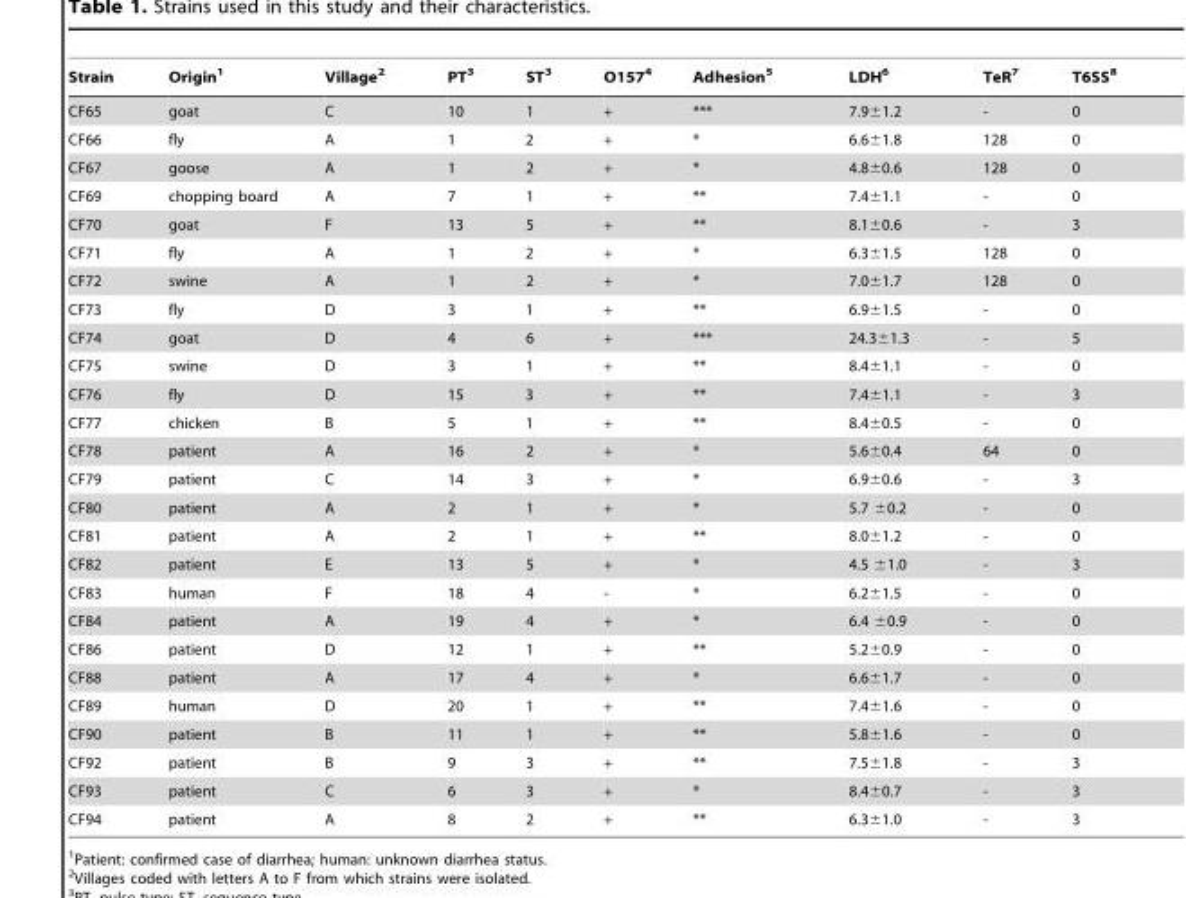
<table><thead><tr><td>Strain</td><td>Origin<sup>1</sup></td><td>Village<sup>2</sup></td><td>PT<sup>3</sup></td><td>ST<sup>3</sup></td><td>O157<sup>4</sup></td><td>Adhesion<sup>5</sup></td><td>LDH<sup>6</sup></td><td>TeR<sup>7</sup></td><td>T6SS<sup>8</sup></td></tr></thead><tbody><tr><td>CF65</td><td>goat</td><td>C</td><td>10</td><td>1</td><td>+</td><td>***</td><td>7.9±1.2</td><td>-</td><td>0</td></tr><tr><td>CF66</td><td>fly</td><td>A</td><td>1</td><td>2</td><td>+</td><td>*</td><td>6.6±1.8</td><td>128</td><td>0</td></tr><tr><td>CF67</td><td>goose</td><td>A</td><td>1</td><td>2</td><td>+</td><td>*</td><td>4.8±0.6</td><td>128</td><td>0</td></tr><tr><td>CF69</td><td>chopping board</td><td>A</td><td>7</td><td>1</td><td>+</td><td>**</td><td>7.4±1.1</td><td>-</td><td>0</td></tr><tr><td>CF70</td><td>goat</td><td>F</td><td>13</td><td>5</td><td>+</td><td>**</td><td>8.1±0.6</td><td>-</td><td>3</td></tr><tr><td>CF71</td><td>fly</td><td>A</td><td>1</td><td>2</td><td>+</td><td>*</td><td>6.3±1.5</td><td>128</td><td>0</td></tr><tr><td>CF72</td><td>swine</td><td>A</td><td>1</td><td>2</td><td>+</td><td>*</td><td>7.0±1.7</td><td>128</td><td>0</td></tr><tr><td>CF73</td><td>fly</td><td>D</td><td>3</td><td>1</td><td>+</td><td>**</td><td>6.9±1.5</td><td>-</td><td>0</td></tr><tr><td>CF74</td><td>goat</td><td>D</td><td>4</td><td>6</td><td>+</td><td>***</td><td>24.3±1.3</td><td>-</td><td>5</td></tr><tr><td>CF75</td><td>swine</td><td>D</td><td>3</td><td>1</td><td>+</td><td>**</td><td>8.4±1.1</td><td>-</td><td>0</td></tr><tr><td>CF76</td><td>fly</td><td>D</td><td>15</td><td>3</td><td>+</td><td>**</td><td>7.4±1.1</td><td>-</td><td>3</td></tr><tr><td>CF77</td><td>chicken</td><td>B</td><td>5</td><td>1</td><td>+</td><td>**</td><td>8.4±0.5</td><td>-</td><td>0</td></tr><tr><td>CF78</td><td>patient</td><td>A</td><td>16</td><td>2</td><td>+</td><td>*</td><td>5.6±0.4</td><td>64</td><td>0</td></tr><tr><td>CF79</td><td>patient</td><td>C</td><td>14</td><td>3</td><td>+</td><td>*</td><td>6.9±0.6</td><td>-</td><td>3</td></tr><tr><td>CF80</td><td>patient</td><td>A</td><td>2</td><td>1</td><td>+</td><td>*</td><td>5.7 ±0.2</td><td>-</td><td>0</td></tr><tr><td>CF81</td><td>patient</td><td>A</td><td>2</td><td>1</td><td>+</td><td>**</td><td>8.0±1.2</td><td>-</td><td>0</td></tr><tr><td>CF82</td><td>patient</td><td>E</td><td>13</td><td>5</td><td>+</td><td>*</td><td>4.5 ±1.0</td><td>-</td><td>3</td></tr><tr><td>CF83</td><td>human</td><td>F</td><td>18</td><td>4</td><td>-</td><td>*</td><td>6.2±1.5</td><td>-</td><td>0</td></tr><tr><td>CF84</td><td>patient</td><td>A</td><td>19</td><td>4</td><td>+</td><td>*</td><td>6.4 ±0.9</td><td>-</td><td>0</td></tr><tr><td>CF86</td><td>patient</td><td>D</td><td>12</td><td>1</td><td>+</td><td>**</td><td>5.2±0.9</td><td>-</td><td>0</td></tr><tr><td>CF88</td><td>patient</td><td>A</td><td>17</td><td>4</td><td>+</td><td>*</td><td>6.6±1.7</td><td>-</td><td>0</td></tr><tr><td>CF89</td><td>human</td><td>D</td><td>20</td><td>1</td><td>+</td><td>**</td><td>7.4±1.6</td><td>-</td><td>0</td></tr><tr><td>CF90</td><td>patient</td><td>B</td><td>11</td><td>1</td><td>+</td><td>**</td><td>5.8±1.6</td><td>-</td><td>0</td></tr><tr><td>CF92</td><td>patient</td><td>B</td><td>9</td><td>3</td><td>+</td><td>**</td><td>7.5±1.8</td><td>-</td><td>3</td></tr><tr><td>CF93</td><td>patient</td><td>C</td><td>6</td><td>3</td><td>+</td><td>*</td><td>8.4±0.7</td><td>-</td><td>3</td></tr><tr><td>CF94</td><td>patient</td><td>A</td><td>8</td><td>2</td><td>+</td><td>**</td><td>6.3±1.0</td><td>-</td><td>3</td></tr></tbody></table>